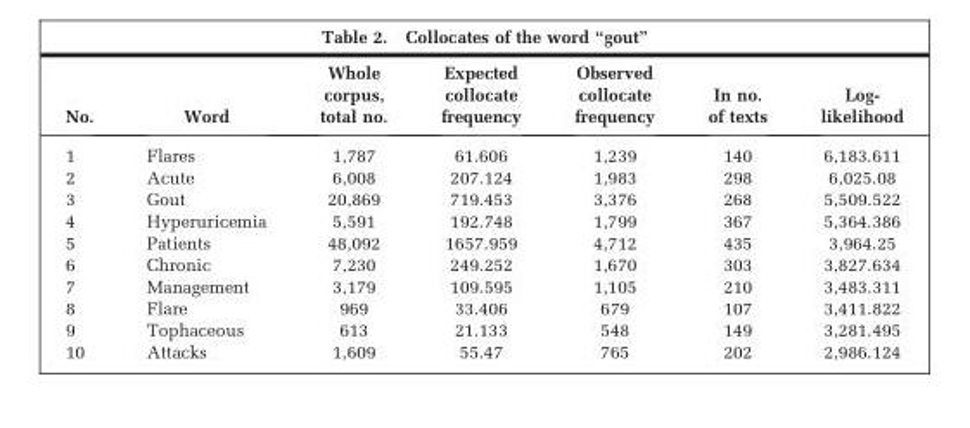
<table><thead><tr><td>No.</td><td>Word</td><td>Whole corpus, total no.</td><td>Expected collocate frequency</td><td>Observed collocate frequency</td><td>In no. of texts</td><td>Log- likelihood</td></tr></thead><tbody><tr><td>1</td><td>Flares</td><td>1,787</td><td>61.606</td><td>1,239</td><td>140</td><td>6,183.611</td></tr><tr><td>2</td><td>Acute</td><td>6,008</td><td>207.124</td><td>1,983</td><td>298</td><td>6,025.08</td></tr><tr><td>3</td><td>Gout</td><td>20,869</td><td>719.453</td><td>3,376</td><td>268</td><td>5,509.522</td></tr><tr><td>4</td><td>Hyperuricemia</td><td>5,591</td><td>192.748</td><td>1,799</td><td>367</td><td>5,364.386</td></tr><tr><td>5</td><td>Patients</td><td>48,092</td><td>1657.959</td><td>4,712</td><td>435</td><td>3,964.25</td></tr><tr><td>6</td><td>Chronic</td><td>7,230</td><td>249.252</td><td>1,670</td><td>303</td><td>3,827.634</td></tr><tr><td>7</td><td>Management</td><td>3,179</td><td>109.595</td><td>1,105</td><td>210</td><td>3,483.311</td></tr><tr><td>8</td><td>Flare</td><td>969</td><td>33.406</td><td>679</td><td>107</td><td>3,411.822</td></tr><tr><td>9</td><td>Tophaceous</td><td>613</td><td>21.133</td><td>548</td><td>149</td><td>3,281.495</td></tr><tr><td>10</td><td>Attacks</td><td>1,609</td><td>55.47</td><td>765</td><td>202</td><td>2,986.124</td></tr></tbody></table>